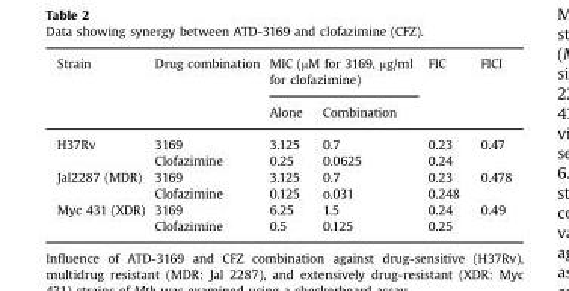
<table><thead><tr><td rowspan="2">Strain</td><td rowspan="2">Drug combination</td><td colspan="2">MIC (µM for 3169, µg/ml for clofazimine)</td><td rowspan="2">FIC</td><td rowspan="2">FICI</td></tr><tr><td>Alone</td><td>Combination</td></tr></thead><tbody><tr><td rowspan="2">H37Rv</td><td>3169</td><td>3.125</td><td>0.7</td><td>0.23</td><td rowspan="2">0.47</td></tr><tr><td>Clofazimine</td><td>0.25</td><td>0.0625</td><td>0.24</td></tr><tr><td rowspan="2">Jal2287 (MDR)</td><td>3169</td><td>3.125</td><td>0.7</td><td>0.23</td><td rowspan="2">0.478</td></tr><tr><td>Clofazimine</td><td>0.125</td><td>o.031</td><td>0.248</td></tr><tr><td rowspan="2">Myc 431 (XDR)</td><td>3169</td><td>6.25</td><td>1.5</td><td>0.24</td><td rowspan="2">0.49</td></tr><tr><td>Clofazimine</td><td>0.5</td><td>0.125</td><td>0.25</td></tr></tbody></table>